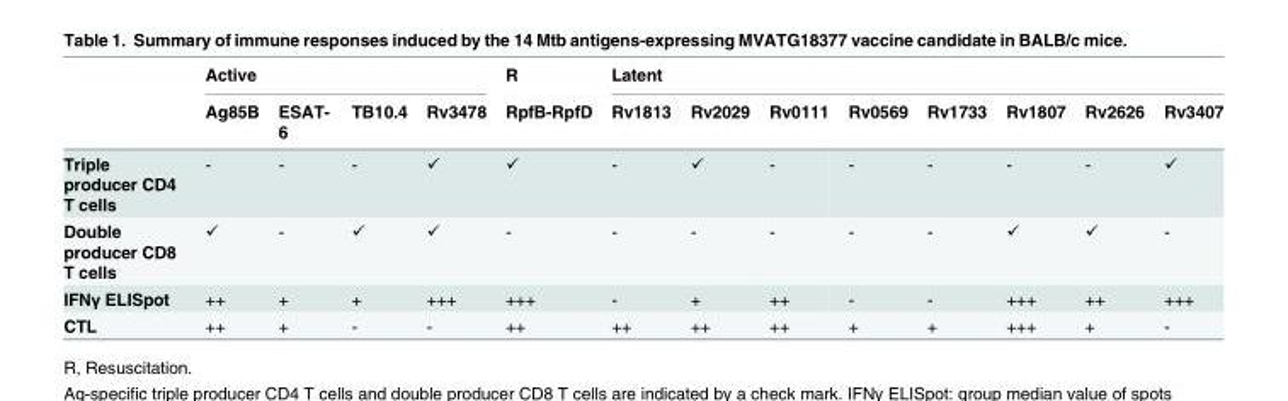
<table><thead><tr><td rowspan="2"></td><td colspan="4">Active</td><td rowspan="2">R RpfB-RpfD</td><td colspan="8">Latent</td></tr><tr><td>Ag85B</td><td>ESAT- 6</td><td>TB10.4</td><td>Rv3478</td><td>Rv1813</td><td>Rv2029</td><td>Rv0111</td><td>Rv0569</td><td>Rv1733</td><td>Rv1807</td><td>Rv2626</td><td>Rv3407</td></tr></thead><tbody><tr><td>Triple producer CD4 T cells</td><td>-</td><td>-</td><td>-</td><td>✓</td><td>✓</td><td>-</td><td>✓</td><td>-</td><td>-</td><td>-</td><td>-</td><td>-</td><td>✓</td></tr><tr><td>Double producer CD8 T cells</td><td>✓</td><td>-</td><td>✓</td><td>✓</td><td>-</td><td>-</td><td>-</td><td>-</td><td>-</td><td>-</td><td>✓</td><td>✓</td><td>-</td></tr><tr><td>IFNγ ELISpot</td><td>++</td><td>+</td><td>+</td><td>+++</td><td>+++</td><td>-</td><td>+</td><td>++</td><td>-</td><td>-</td><td>+++</td><td>++</td><td>+++</td></tr><tr><td>CTL</td><td>++</td><td>+</td><td>-</td><td>-</td><td>++</td><td>++</td><td>++</td><td>++</td><td>+</td><td>+</td><td>+++</td><td>+</td><td>-</td></tr></tbody></table>